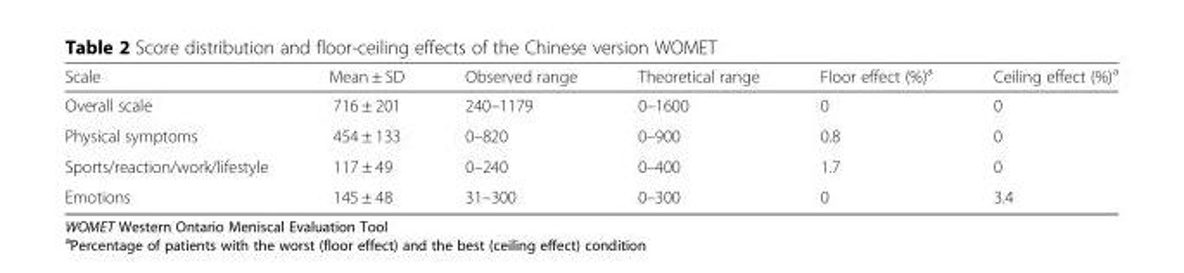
<table><thead><tr><td>Scale</td><td>Mean ± SD</td><td>Observed range</td><td>Theoretical range</td><td>Floor effect (%)<sup>a</sup></td><td>Ceiling effect (%)<sup>a</sup></td></tr></thead><tbody><tr><td>Overall scale</td><td>716 ± 201</td><td>240–1179</td><td>0–1600</td><td>0</td><td>0</td></tr><tr><td>Physical symptoms</td><td>454 ± 133</td><td>0–820</td><td>0–900</td><td>0.8</td><td>0</td></tr><tr><td>Sports/reaction/work/lifestyle</td><td>117 ± 49</td><td>0–240</td><td>0–400</td><td>1.7</td><td>0</td></tr><tr><td>Emotions</td><td>145 ± 48</td><td>31–300</td><td>0–300</td><td>0</td><td>3.4</td></tr></tbody></table>